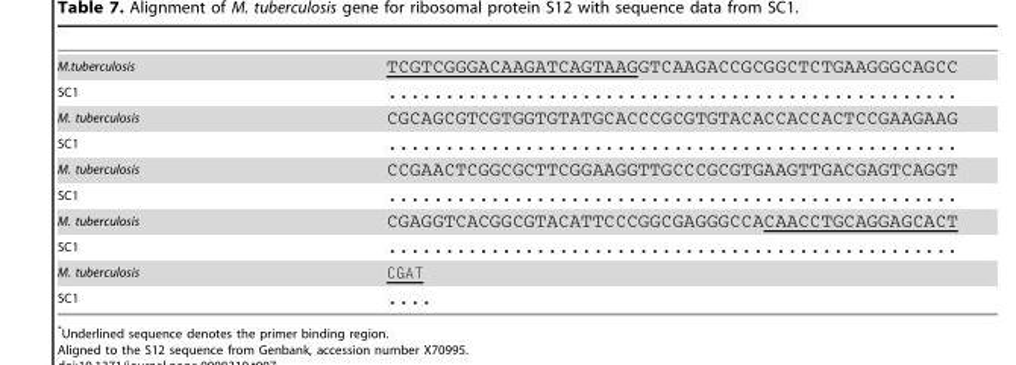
<table><tbody><tr><td>M.tuberculosis</td><td>TCGTCGGGACAAGATCAGTAAGGTCAAGACCGCGGCTCTGAAGGGCAGCC</td></tr><tr><td>SC1</td><td>..................................................</td></tr><tr><td>M. tuberculosis</td><td>CGCAGCGTCGTGGTGTATGCACCCGCGTGTACACCACCACTCCGAAGAAG</td></tr><tr><td>SC1</td><td>..................................................</td></tr><tr><td>M. tuberculosis</td><td>CCGAACTCGGCGCTTCGGAAGGTTGCCCGCGTGAAGTTGACGAGTCAGGT</td></tr><tr><td>SC1</td><td>..................................................</td></tr><tr><td>M. tuberculosis</td><td>CGAGGTCACGGCGTACATTCCCGGCGAGGGCCACAACCTGCAGGAGCACT</td></tr><tr><td>SC1</td><td>..................................................</td></tr><tr><td>M. tuberculosis</td><td>CGAT</td></tr><tr><td>SC1</td><td>....</td></tr></tbody></table>